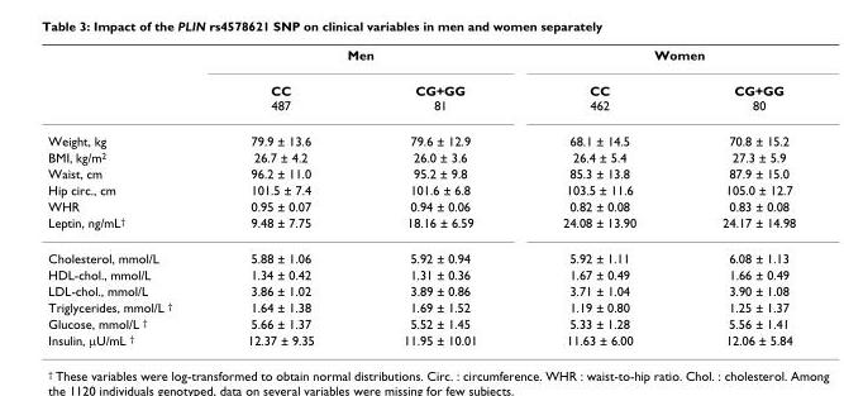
<table><thead><tr><td rowspan="2"></td><td colspan="2">Men</td><td colspan="2">Women</td></tr><tr><td>CC 487</td><td>CG+GG 81</td><td>CC 462</td><td>CG+GG 80</td></tr></thead><tbody><tr><td>Weight, kg</td><td>79.9 ± 13.6</td><td>79.6 ± 12.9</td><td>68.1 ± 14.5</td><td>70.8 ± 15.2</td></tr><tr><td>BMI, kg/m<sup>2</sup></td><td>26.7 ± 4.2</td><td>26.0 ± 3.6</td><td>26.4 ± 5.4</td><td>27.3 ± 5.9</td></tr><tr><td>Waist, cm</td><td>96.2 ± 11.0</td><td>95.2 ± 9.8</td><td>85.3 ± 13.8</td><td>87.9 ± 15.0</td></tr><tr><td>Hip circ., cm</td><td>101.5 ± 7.4</td><td>101.6 ± 6.8</td><td>103.5 ± 11.6</td><td>105.0 ± 12.7</td></tr><tr><td>WHR</td><td>0.95 ± 0.07</td><td>0.94 ± 0.06</td><td>0.82 ± 0.08</td><td>0.83 ± 0.08</td></tr><tr><td>Leptin, ng/mL<sup>†</sup></td><td>9.48 ± 7.75</td><td>18.16 ± 6.59</td><td>24.08 ± 13.90</td><td>24.17 ± 14.98</td></tr><tr><td>Cholesterol, mmol/L</td><td>5.88 ± 1.06</td><td>5.92 ± 0.94</td><td>5.92 ± 1.11</td><td>6.08 ± 1.13</td></tr><tr><td>HDL-chol., mmol/L</td><td>1.34 ± 0.42</td><td>1.31 ± 0.36</td><td>1.67 ± 0.49</td><td>1.66 ± 0.49</td></tr><tr><td>LDL-chol., mmol/L</td><td>3.86 ± 1.02</td><td>3.89 ± 0.86</td><td>3.71 ± 1.04</td><td>3.90 ± 1.08</td></tr><tr><td>Triglycerides, mmol/L <sup>†</sup></td><td>1.64 ± 1.38</td><td>1.69 ± 1.52</td><td>1.19 ± 0.80</td><td>1.25 ± 1.37</td></tr><tr><td>Glucose, mmol/L <sup>†</sup></td><td>5.66 ± 1.37</td><td>5.52 ± 1.45</td><td>5.33 ± 1.28</td><td>5.56 ± 1.41</td></tr><tr><td>Insulin, µU/mL <sup>†</sup></td><td>12.37 ± 9.35</td><td>11.95 ± 10.01</td><td>11.63 ± 6.00</td><td>12.06 ± 5.84</td></tr></tbody></table>